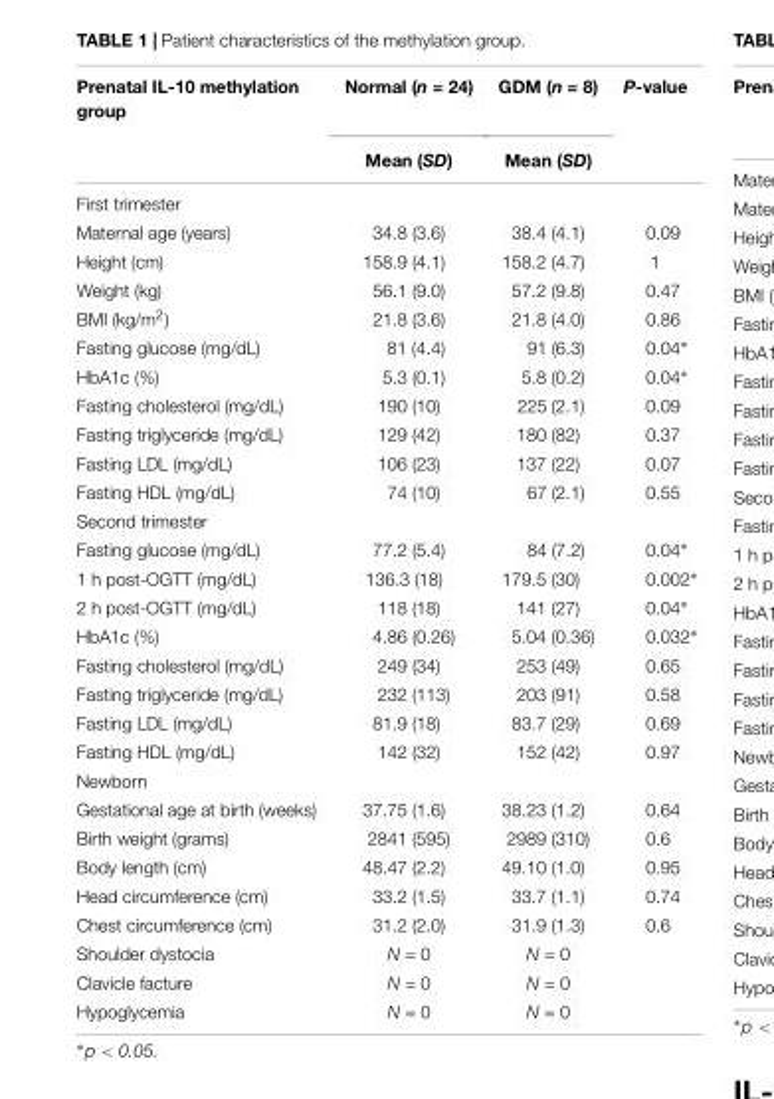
<table><thead><tr><td rowspan="2">Prenatal IL-10 methylation group</td><td rowspan="2">Normal (n = 24) Mean (SD)</td><td rowspan="2">GDM (n = 8) Mean (SD)</td><td rowspan="2">P-value</td></tr><tr></tr></thead><tbody><tr><td colspan="4">First trimester</td></tr><tr><td>Maternal age (years)</td><td>34.8 (3.6)</td><td>38.4 (4.1)</td><td>0.09</td></tr><tr><td>Height (cm)</td><td>158.9 (4.1)</td><td>158.2 (4.7)</td><td>1</td></tr><tr><td>Weight (kg)</td><td>56.1 (9.0)</td><td>57.2 (9.8)</td><td>0.47</td></tr><tr><td>BMI (kg/m<sup>2</sup>)</td><td>21.8 (3.6)</td><td>21.8 (4.0)</td><td>0.86</td></tr><tr><td>Fasting glucose (mg/dL)</td><td>81 (4.4)</td><td>91 (6.3)</td><td>0.04∗</td></tr><tr><td>HbA1c (%)</td><td>5.3 (0.1)</td><td>5.8 (0.2)</td><td>0.04∗</td></tr><tr><td>Fasting cholesterol (mg/dL)</td><td>190 (10)</td><td>225 (2.1)</td><td>0.09</td></tr><tr><td>Fasting triglyceride (mg/dL)</td><td>129 (42)</td><td>180 (82)</td><td>0.37</td></tr><tr><td>Fasting LDL (mg/dL)</td><td>106 (23)</td><td>137 (22)</td><td>0.07</td></tr><tr><td>Fasting HDL (mg/dL)</td><td>74 (10)</td><td>67 (2.1)</td><td>0.55</td></tr><tr><td colspan="4">Second trimester</td></tr><tr><td>Fasting glucose (mg/dL)</td><td>77.2 (5.4)</td><td>84 (7.2)</td><td>0.04∗</td></tr><tr><td>1 h post-OGTT (mg/dL)</td><td>136.3 (18)</td><td>179.5 (30)</td><td>0.002∗</td></tr><tr><td>2 h post-OGTT (mg/dL)</td><td>118 (18)</td><td>141 (27)</td><td>0.04∗</td></tr><tr><td>HbA1c (%)</td><td>4.86 (0.26)</td><td>5.04 (0.36)</td><td>0.032∗</td></tr><tr><td>Fasting cholesterol (mg/dL)</td><td>249 (34)</td><td>253 (49)</td><td>0.65</td></tr><tr><td>Fasting triglyceride (mg/dL)</td><td>232 (113)</td><td>203 (91)</td><td>0.58</td></tr><tr><td>Fasting LDL (mg/dL)</td><td>81.9 (18)</td><td>83.7 (29)</td><td>0.69</td></tr><tr><td>Fasting HDL (mg/dL)</td><td>142 (32)</td><td>152 (42)</td><td>0.97</td></tr><tr><td colspan="4">Newborn</td></tr><tr><td>Gestational age at birth (weeks)</td><td>37.75 (1.6)</td><td>38.23 (1.2)</td><td>0.64</td></tr><tr><td>Birth weight (grams)</td><td>2841 (595)</td><td>2989 (310)</td><td>0.6</td></tr><tr><td>Body length (cm)</td><td>48.47 (2.2)</td><td>49.10 (1.0)</td><td>0.95</td></tr><tr><td>Head circumference (cm)</td><td>33.2 (1.5)</td><td>33.7 (1.1)</td><td>0.74</td></tr><tr><td>Chest circumference (cm)</td><td>31.2 (2.0)</td><td>31.9 (1.3)</td><td>0.6</td></tr><tr><td>Shoulder dystocia</td><td>N = 0</td><td>N = 0</td><td></td></tr><tr><td>Clavicle facture</td><td>N = 0</td><td>N = 0</td><td></td></tr><tr><td>Hypoglycemia</td><td>N = 0</td><td>N = 0</td><td></td></tr></tbody></table>